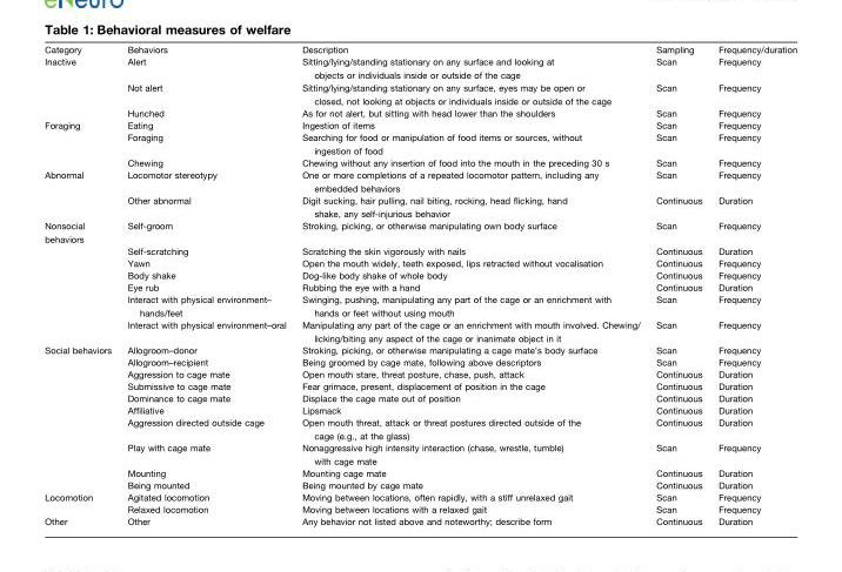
<table><thead><tr><td>Category</td><td>Behaviors</td><td>Description</td><td>Sampling</td><td>Frequency/duration</td></tr></thead><tbody><tr><td rowspan="3">Inactive</td><td>Alert</td><td>Sitting/lying/standing stationary on any surface and looking at objects or individuals inside or outside of the cage</td><td>Scan</td><td>Frequency</td></tr><tr><td>Not alert</td><td>Sitting/lying/standing stationary on any surface, eyes may be open or closed, not looking at objects or individuals inside or outside of the cage</td><td>Scan</td><td>Frequency</td></tr><tr><td>Hunched</td><td>As for not alert, but sitting with head lower than the shoulders</td><td>Scan</td><td>Frequency</td></tr><tr><td rowspan="3">Foraging</td><td>Eating</td><td>Ingestion of items</td><td>Scan</td><td>Frequency</td></tr><tr><td>Foraging</td><td>Searching for food or manipulation of food items or sources, without ingestion of food</td><td>Scan</td><td>Frequency</td></tr><tr><td>Chewing</td><td>Chewing without any insertion of food into the mouth in the preceding 30 s</td><td>Scan</td><td>Frequency</td></tr><tr><td rowspan="2">Abnormal</td><td>Locomotor stereotypy</td><td>One or more completions of a repeated locomotor pattern, including any embedded behaviors</td><td>Scan</td><td>Frequency</td></tr><tr><td>Other abnormal</td><td>Digit sucking, hair pulling, nail biting, rocking, head flicking, hand shake, any self-injurious behavior</td><td>Continuous</td><td>Duration</td></tr><tr><td rowspan="7">Nonsocial behaviors</td><td>Self-groom</td><td>Stroking, picking, or otherwise manipulating own body surface</td><td>Scan</td><td>Frequency</td></tr><tr><td>Self-scratching</td><td>Scratching the skin vigorously with nails</td><td>Continuous</td><td>Duration</td></tr><tr><td>Yawn</td><td>Open the mouth widely, teeth exposed, lips retracted without vocalisation</td><td>Continuous</td><td>Frequency</td></tr><tr><td>Body shake</td><td>Dog-like body shake of whole body</td><td>Continuous</td><td>Frequency</td></tr><tr><td>Eye rub</td><td>Rubbing the eye with a hand</td><td>Continuous</td><td>Duration</td></tr><tr><td>Interact with physical environment– hands/feet</td><td>Swinging, pushing, manipulating any part of the cage or an enrichment with hands or feet without using mouth</td><td>Scan</td><td>Frequency</td></tr><tr><td>Interact with physical environment–oral</td><td>Manipulating any part of the cage or an enrichment with mouth involved. Chewing/ licking/biting any aspect of the cage or inanimate object in it</td><td>Scan</td><td>Frequency</td></tr><tr><td rowspan="10">Social behaviors</td><td>Allogroom–donor</td><td>Stroking, picking, or otherwise manipulating a cage mate’s body surface</td><td>Scan</td><td>Frequency</td></tr><tr><td>Allogroom–recipient</td><td>Being groomed by cage mate, following above descriptors</td><td>Scan</td><td>Frequency</td></tr><tr><td>Aggression to cage mate</td><td>Open mouth stare, threat posture, chase, push, attack</td><td>Continuous</td><td>Duration</td></tr><tr><td>Submissive to cage mate</td><td>Fear grimace, present, displacement of position in the cage</td><td>Continuous</td><td>Duration</td></tr><tr><td>Dominance to cage mate</td><td>Displace the cage mate out of position</td><td>Continuous</td><td>Duration</td></tr><tr><td>Affiliative</td><td>Lipsmack</td><td>Continuous</td><td>Duration</td></tr><tr><td>Aggression directed outside cage</td><td>Open mouth threat, attack or threat postures directed outside of the cage (e.g., at the glass)</td><td>Continuous</td><td>Duration</td></tr><tr><td>Play with cage mate</td><td>Nonaggressive high intensity interaction (chase, wrestle, tumble) with cage mate</td><td>Scan</td><td>Frequency</td></tr><tr><td>Mounting</td><td>Mounting cage mate</td><td>Continuous</td><td>Duration</td></tr><tr><td>Being mounted</td><td>Being mounted by cage mate</td><td>Continuous</td><td>Duration</td></tr><tr><td rowspan="2">Locomotion</td><td>Agitated locomotion</td><td>Moving between locations, often rapidly, with a stiff unrelaxed gait</td><td>Scan</td><td>Frequency</td></tr><tr><td>Relaxed locomotion</td><td>Moving between locations with a relaxed gait</td><td>Scan</td><td>Frequency</td></tr><tr><td>Other</td><td>Other</td><td>Any behavior not listed above and noteworthy; describe form</td><td>Continuous</td><td>Duration</td></tr></tbody></table>